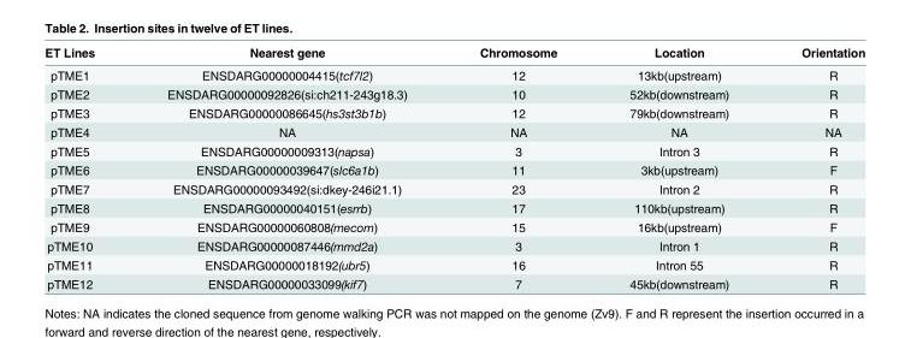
<table><thead><tr><td>ET Lines</td><td>Nearest gene</td><td>Chromosome</td><td>Location</td><td>Orientation</td></tr></thead><tbody><tr><td>pTME1</td><td>ENSDARG00000004415(tcf7l2)</td><td>12</td><td>13kb(upstream)</td><td>R</td></tr><tr><td>pTME2</td><td>ENSDARG00000092826(si:ch211-243g18.3)</td><td>10</td><td>52kb(downstream)</td><td>R</td></tr><tr><td>pTME3</td><td>ENSDARG00000086645(hs3st3b1b)</td><td>12</td><td>79kb(downstream)</td><td>R</td></tr><tr><td>pTME4</td><td>NA</td><td>NA</td><td>NA</td><td>NA</td></tr><tr><td>pTME5</td><td>ENSDARG00000009313(napsa)</td><td>3</td><td>Intron 3</td><td>R</td></tr><tr><td>pTME6</td><td>ENSDARG00000039647(slc6a1b)</td><td>11</td><td>3kb(upstream)</td><td>F</td></tr><tr><td>pTME7</td><td>ENSDARG00000093492(si:dkey-246i21.1)</td><td>23</td><td>Intron 2</td><td>R</td></tr><tr><td>pTME8</td><td>ENSDARG00000040151(esrrb)</td><td>17</td><td>110kb(upstream)</td><td>R</td></tr><tr><td>pTME9</td><td>ENSDARG00000060808(mecom)</td><td>15</td><td>16kb(upstream)</td><td>F</td></tr><tr><td>pTME10</td><td>ENSDARG00000087446(mmd2a)</td><td>3</td><td>Intron 1</td><td>R</td></tr><tr><td>pTME11</td><td>ENSDARG00000018192(ubr5)</td><td>16</td><td>Intron 55</td><td>R</td></tr><tr><td>pTME12</td><td>ENSDARG00000033099(kif7)</td><td>7</td><td>45kb(downstream)</td><td>R</td></tr></tbody></table>